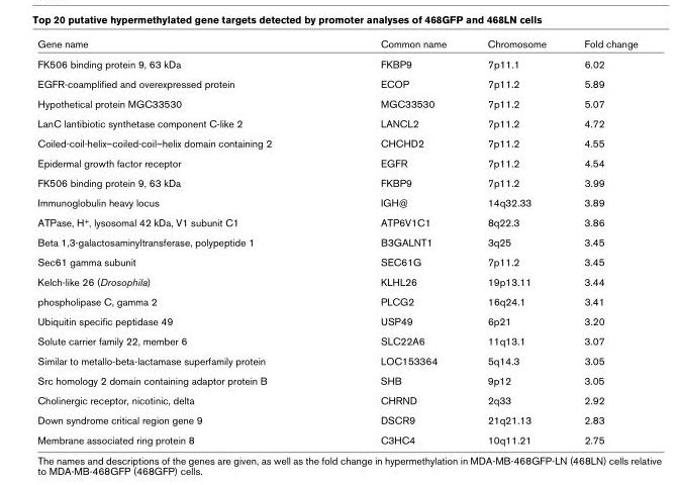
<table><thead><tr><td>Gene name</td><td>Common name</td><td>Chromosome</td><td>Fold change</td></tr></thead><tbody><tr><td>FK506 binding protein 9, 63 kDa</td><td>FKBP9</td><td>7p11.1</td><td>6.02</td></tr><tr><td>EGFR-coamplified and overexpressed protein</td><td>ECOP</td><td>7p11.2</td><td>5.89</td></tr><tr><td>Hypothetical protein MGC33530</td><td>MGC33530</td><td>7p11.2</td><td>5.07</td></tr><tr><td>LanC lantibiotic synthetase component C-like 2</td><td>LANCL2</td><td>7p11.2</td><td>4.72</td></tr><tr><td>Coiled-coil-helix–coiled-coil–helix domain containing 2</td><td>CHCHD2</td><td>7p11.2</td><td>4.55</td></tr><tr><td>Epidermal growth factor receptor</td><td>EGFR</td><td>7p11.2</td><td>4.54</td></tr><tr><td>FK506 binding protein 9, 63 kDa</td><td>FKBP9</td><td>7p11.2</td><td>3.99</td></tr><tr><td>Immunoglobulin heavy locus</td><td>IGH@</td><td>14q32.33</td><td>3.89</td></tr><tr><td>ATPase, H<sup>+</sup>, lysosomal 42 kDa, V1 subunit C1</td><td>ATP6V1C1</td><td>8q22.3</td><td>3.86</td></tr><tr><td>Beta 1,3-galactosaminyltransferase, polypeptide 1</td><td>B3GALNT1</td><td>3q25</td><td>3.45</td></tr><tr><td>Sec61 gamma subunit</td><td>SEC61G</td><td>7p11.2</td><td>3.45</td></tr><tr><td>Kelch-like 26 (Drosophila)</td><td>KLHL26</td><td>19p13.11</td><td>3.44</td></tr><tr><td>phospholipase C, gamma 2</td><td>PLCG2</td><td>16q24.1</td><td>3.41</td></tr><tr><td>Ubiquitin specific peptidase 49</td><td>USP49</td><td>6p21</td><td>3.20</td></tr><tr><td>Solute carrier family 22, member 6</td><td>SLC22A6</td><td>11q13.1</td><td>3.07</td></tr><tr><td>Similar to metallo-beta-lactamase superfamily protein</td><td>LOC153364</td><td>5q14.3</td><td>3.05</td></tr><tr><td>Src homology 2 domain containing adaptor protein B</td><td>SHB</td><td>9p12</td><td>3.05</td></tr><tr><td>Cholinergic receptor, nicotinic, delta</td><td>CHRND</td><td>2q33</td><td>2.92</td></tr><tr><td>Down syndrome critical region gene 9</td><td>DSCR9</td><td>21q21.13</td><td>2.83</td></tr><tr><td>Membrane associated ring protein 8</td><td>C3HC4</td><td>10q11.21</td><td>2.75</td></tr></tbody></table>